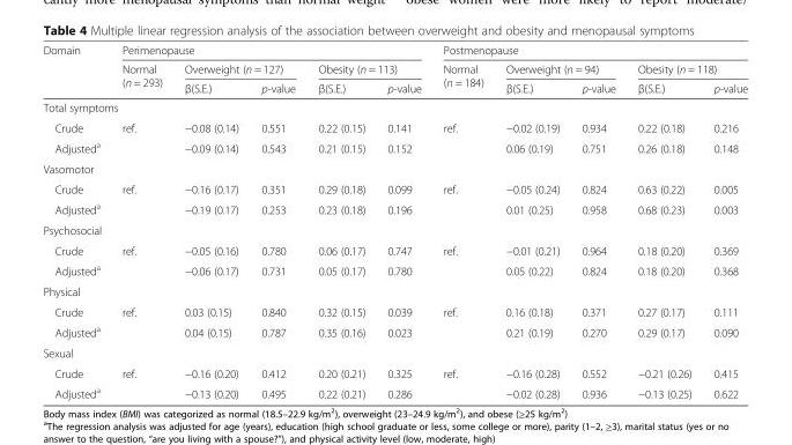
<table><thead><tr><td rowspan="3">Domain</td><td colspan="5">Perimenopause</td><td colspan="5">Postmenopause</td></tr><tr><td rowspan="2">Normal (n = 293)</td><td colspan="2">Overweight (n = 127)</td><td colspan="2">Obesity (n = 113)</td><td rowspan="2">Normal (n = 184)</td><td colspan="2">Overweight (n = 94)</td><td colspan="2">Obesity (n = 118)</td></tr><tr><td>β(S.E.)</td><td>p-value</td><td>β(S.E.)</td><td>p-value</td><td>β(S.E.)</td><td>p-value</td><td>β(S.E.)</td><td>p-value</td></tr></thead><tbody><tr><td colspan="11">Total symptoms</td></tr><tr><td>Crude</td><td rowspan="2">ref.</td><td>−0.08 (0.14)</td><td>0.551</td><td>0.22 (0.15)</td><td>0.141</td><td rowspan="2">ref.</td><td>−0.02 (0.19)</td><td>0.934</td><td>0.22 (0.18)</td><td>0.216</td></tr><tr><td>Adjusted<sup>a</sup></td><td>−0.09 (0.14)</td><td>0.543</td><td>0.21 (0.15)</td><td>0.152</td><td>0.06 (0.19)</td><td>0.751</td><td>0.26 (0.18)</td><td>0.148</td></tr><tr><td colspan="11">Vasomotor</td></tr><tr><td>Crude</td><td rowspan="2">ref.</td><td>−0.16 (0.17)</td><td>0.351</td><td>0.29 (0.18)</td><td>0.099</td><td rowspan="2">ref.</td><td>−0.05 (0.24)</td><td>0.824</td><td>0.63 (0.22)</td><td>0.005</td></tr><tr><td>Adjusted<sup>a</sup></td><td>−0.19 (0.17)</td><td>0.253</td><td>0.23 (0.18)</td><td>0.196</td><td>0.01 (0.25)</td><td>0.958</td><td>0.68 (0.23)</td><td>0.003</td></tr><tr><td colspan="11">Psychosocial</td></tr><tr><td>Crude</td><td rowspan="2">ref.</td><td>−0.05 (0.16)</td><td>0.780</td><td>0.06 (0.17)</td><td>0.747</td><td rowspan="2">ref.</td><td>−0.01 (0.21)</td><td>0.964</td><td>0.18 (0.20)</td><td>0.369</td></tr><tr><td>Adjusted<sup>a</sup></td><td>−0.06 (0.17)</td><td>0.731</td><td>0.05 (0.17)</td><td>0.780</td><td>0.05 (0.22)</td><td>0.824</td><td>0.18 (0.20)</td><td>0.368</td></tr><tr><td colspan="11">Physical</td></tr><tr><td>Crude</td><td rowspan="2">ref.</td><td>0.03 (0.15)</td><td>0.840</td><td>0.32 (0.15)</td><td>0.039</td><td rowspan="2">ref.</td><td>0.16 (0.18)</td><td>0.371</td><td>0.27 (0.17)</td><td>0.111</td></tr><tr><td>Adjusted<sup>a</sup></td><td>0.04 (0.15)</td><td>0.787</td><td>0.35 (0.16)</td><td>0.023</td><td>0.21 (0.19)</td><td>0.270</td><td>0.29 (0.17)</td><td>0.090</td></tr><tr><td colspan="11">Sexual</td></tr><tr><td>Crude</td><td rowspan="2">ref.</td><td>−0.16 (0.20)</td><td>0.412</td><td>0.20 (0.21)</td><td>0.325</td><td rowspan="2">ref.</td><td>−0.16 (0.28)</td><td>0.552</td><td>−0.21 (0.26)</td><td>0.415</td></tr><tr><td>Adjusted<sup>a</sup></td><td>−0.13 (0.20)</td><td>0.495</td><td>0.22 (0.21)</td><td>0.286</td><td>−0.02 (0.28)</td><td>0.936</td><td>−0.13 (0.25)</td><td>0.622</td></tr></tbody></table>